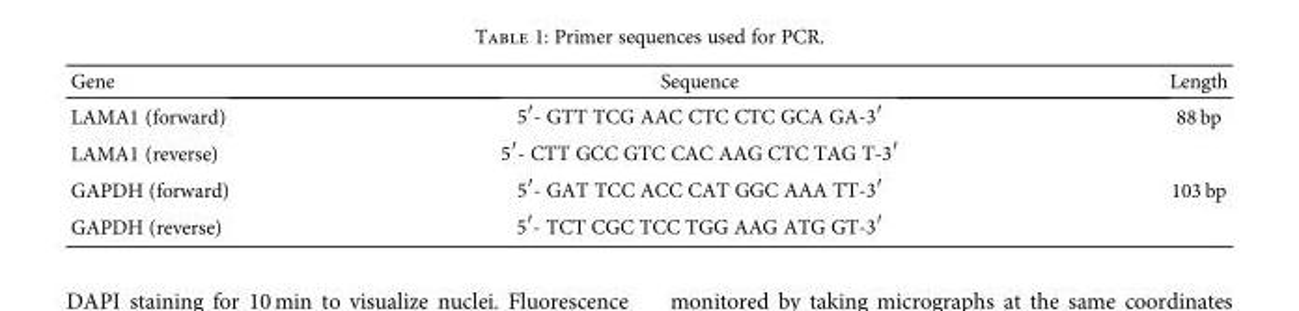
<table><thead><tr><td>Gene</td><td>Sequence</td><td>Length</td></tr></thead><tbody><tr><td>LAMA1 (forward)</td><td>5′- GTT TCG AAC CTC CTC GCA GA-3′</td><td>88 bp</td></tr><tr><td>LAMA1 (reverse)</td><td>5′- CTT GCC GTC CAC AAG CTC TAG T-3′</td><td></td></tr><tr><td>GAPDH (forward)</td><td>5′- GAT TCC ACC CAT GGC AAA TT-3′</td><td>103 bp</td></tr><tr><td>GAPDH (reverse)</td><td>5′- TCT CGC TCC TGG AAG ATG GT-3′</td><td></td></tr></tbody></table>